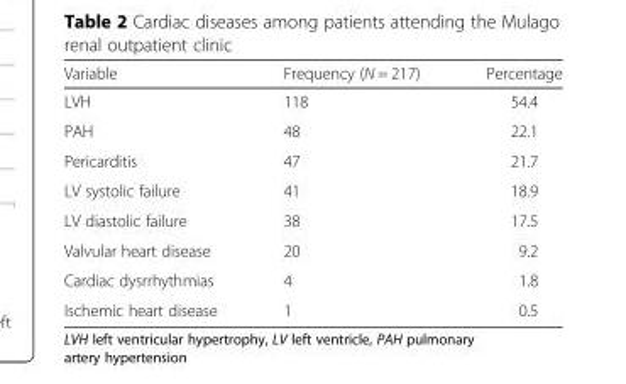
<table><thead><tr><td>Variable</td><td>Frequency (N = 217)</td><td>Percentage</td></tr></thead><tbody><tr><td>LVH</td><td>118</td><td>54.4</td></tr><tr><td>PAH</td><td>48</td><td>22.1</td></tr><tr><td>Pericarditis</td><td>47</td><td>21.7</td></tr><tr><td>LV systolic failure</td><td>41</td><td>18.9</td></tr><tr><td>LV diastolic failure</td><td>38</td><td>17.5</td></tr><tr><td>Valvular heart disease</td><td>20</td><td>9.2</td></tr><tr><td>Cardiac dysrrhythmias</td><td>4</td><td>1.8</td></tr><tr><td>Ischemic heart disease</td><td>1</td><td>0.5</td></tr></tbody></table>